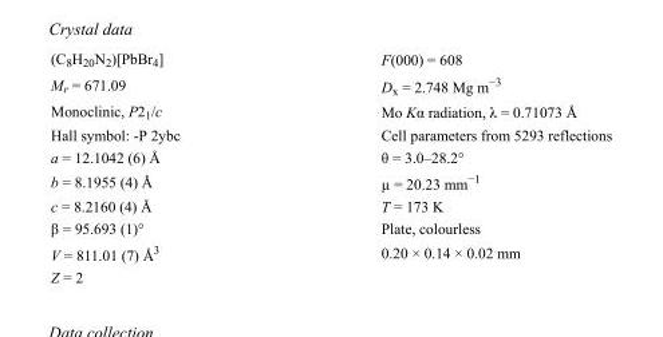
<table><tbody><tr><td>(C<sub>8</sub>H<sub>20</sub>N<sub>2</sub>)[PbBr<sub>4</sub>]</td><td>F(000) = 608</td></tr><tr><td>M<sub>r</sub> = 671.09</td><td>D<sub>x</sub> = 2.748 Mg m<sup>−3</sup></td></tr><tr><td>Monoclinic, P2<sub>1</sub>/c</td><td>Mo Kα radiation, λ = 0.71073 Å</td></tr><tr><td>Hall symbol: -P 2ybc</td><td>Cell parameters from 5293 reflections</td></tr><tr><td>a = 12.1042 (6) Å</td><td>θ = 3.0–28.2°</td></tr><tr><td>b = 8.1955 (4) Å</td><td>µ = 20.23 mm<sup>−1</sup></td></tr><tr><td>c = 8.2160 (4) Å</td><td>T = 173 K</td></tr><tr><td>β = 95.693 (1)°</td><td>Plate, colourless</td></tr><tr><td>V = 811.01 (7) Å<sup>3</sup></td><td>0.20 × 0.14 × 0.02 mm</td></tr><tr><td>Z = 2</td><td></td></tr></tbody></table>